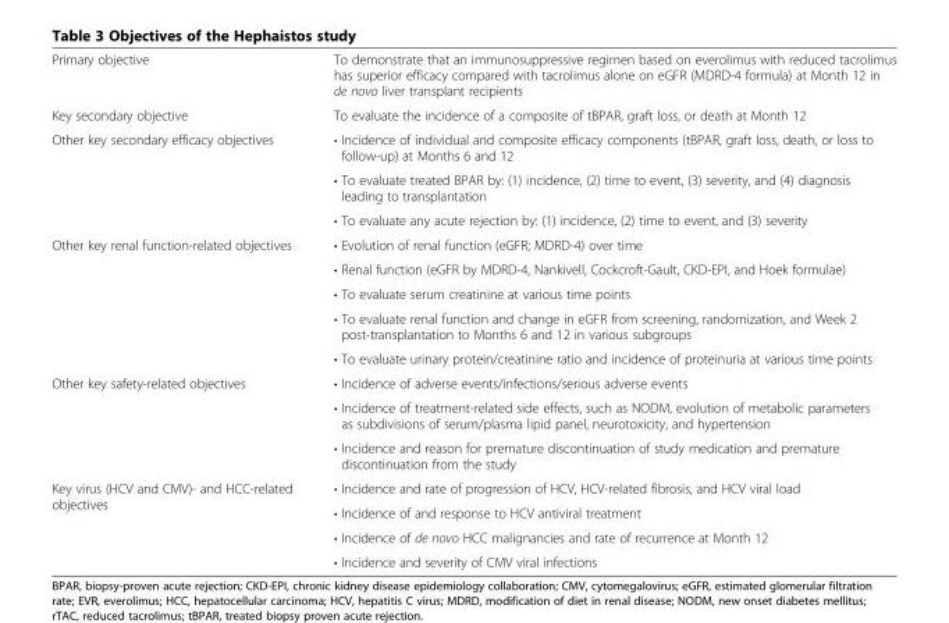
<table><tbody><tr><td>Primary objective</td><td>To demonstrate that an immunosuppressive regimen based on everolimus with reduced tacrolimus has superior efficacy compared with tacrolimus alone on eGFR (MDRD-4 formula) at Month 12 in de novo liver transplant recipients</td></tr><tr><td>Key secondary objective</td><td>To evaluate the incidence of a composite of tBPAR, graft loss, or death at Month 12</td></tr><tr><td rowspan="3">Other key secondary efficacy objectives</td><td>• Incidence of individual and composite efficacy components (tBPAR, graft loss, death, or loss to follow-up) at Months 6 and 12</td></tr><tr><td>• To evaluate treated BPAR by: (1) incidence, (2) time to event, (3) severity, and (4) diagnosis leading to transplantation</td></tr><tr><td>• To evaluate any acute rejection by: (1) incidence, (2) time to event, and (3) severity</td></tr><tr><td rowspan="5">Other key renal function-related objectives</td><td>• Evolution of renal function (eGFR; MDRD-4) over time</td></tr><tr><td>• Renal function (eGFR by MDRD-4, Nankivell, Cockcroft-Gault, CKD-EPI, and Hoek formulae)</td></tr><tr><td>• To evaluate serum creatinine at various time points</td></tr><tr><td>• To evaluate renal function and change in eGFR from screening, randomization, and Week 2 post-transplantation to Months 6 and 12 in various subgroups</td></tr><tr><td>• To evaluate urinary protein/creatinine ratio and incidence of proteinuria at various time points</td></tr><tr><td rowspan="3">Other key safety-related objectives</td><td>• Incidence of adverse events/infections/serious adverse events</td></tr><tr><td>• Incidence of treatment-related side effects, such as NODM, evolution of metabolic parameters as subdivisions of serum/plasma lipid panel, neurotoxicity, and hypertension</td></tr><tr><td>• Incidence and reason for premature discontinuation of study medication and premature discontinuation from the study</td></tr><tr><td rowspan="4">Key virus (HCV and CMV)- and HCC-related objectives</td><td>• Incidence and rate of progression of HCV, HCV-related fibrosis, and HCV viral load</td></tr><tr><td>• Incidence of and response to HCV antiviral treatment</td></tr><tr><td>• Incidence of de novo HCC malignancies and rate of recurrence at Month 12</td></tr><tr><td>• Incidence and severity of CMV viral infections</td></tr></tbody></table>